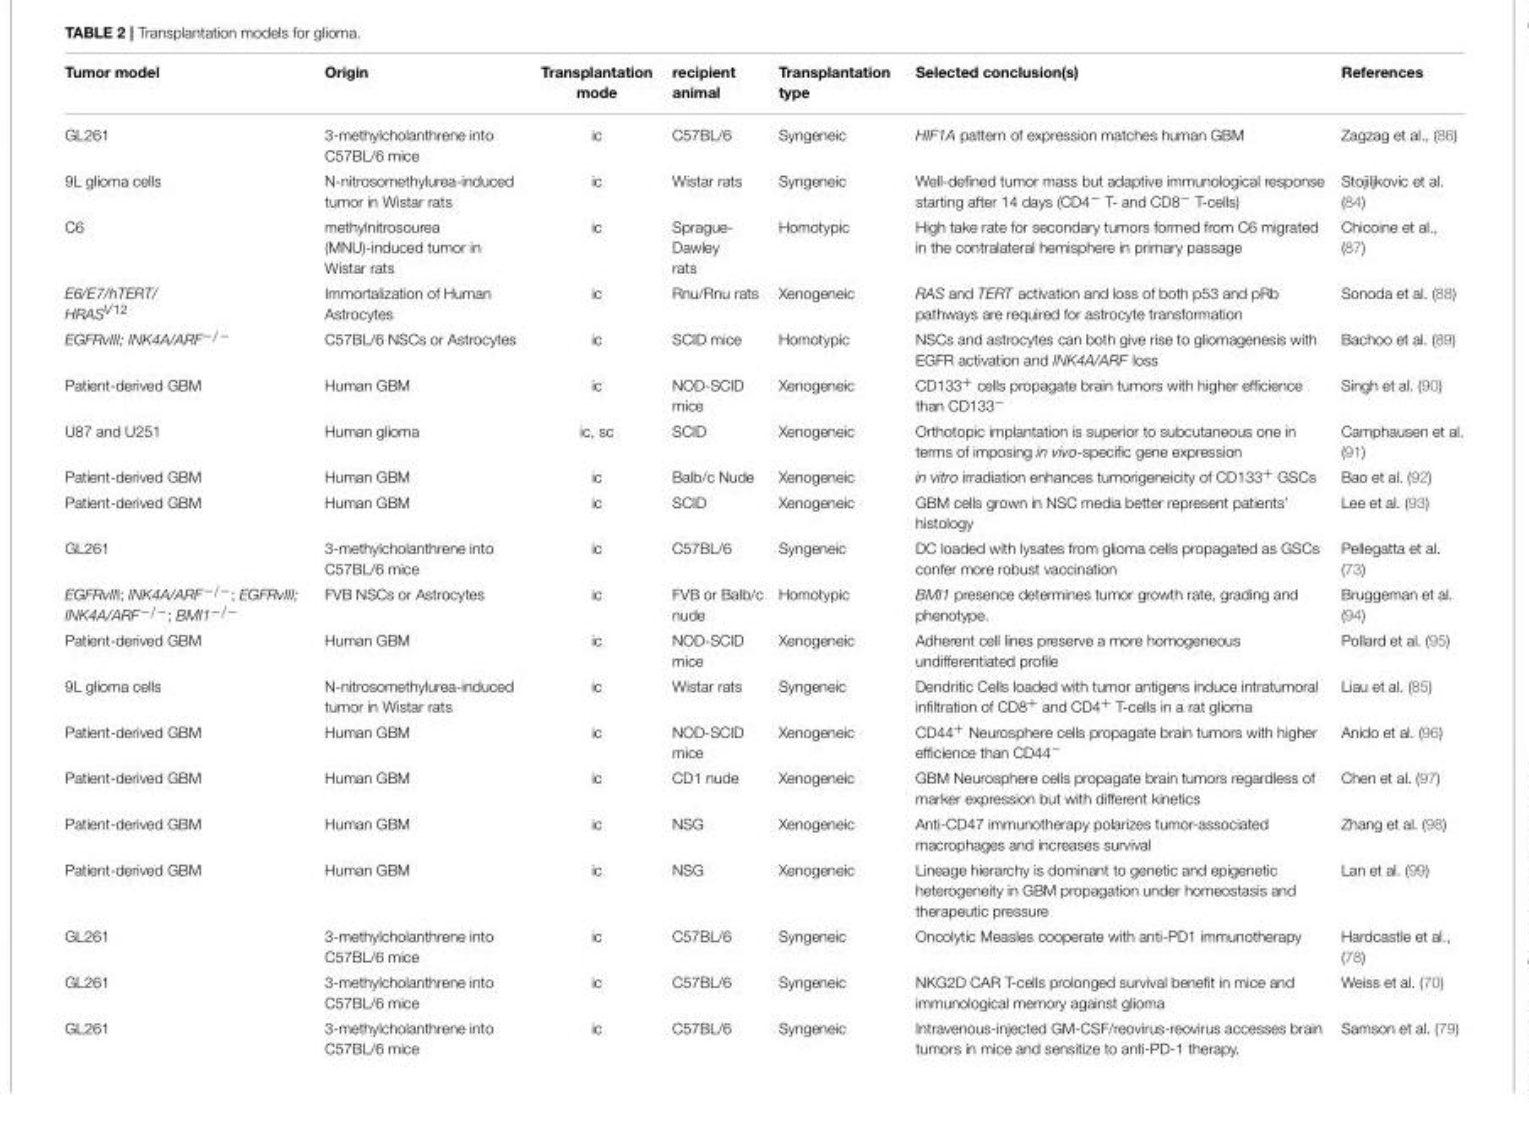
<table><thead><tr><td>Tumor model</td><td>Origin</td><td>Transplantation mode</td><td>recipient animal</td><td>Transplantation type</td><td>Selected conclusion(s)</td><td>References</td></tr></thead><tbody><tr><td>GL261</td><td>3-methylcholanthrene into C57BL/6 mice</td><td>ic</td><td>C57BL/6</td><td>Syngeneic</td><td>HIF1A pattern of expression matches human GBM</td><td>Zagzag et al., (86)</td></tr><tr><td>9L glioma cells</td><td>N-nitrosomethylurea-induced tumor in Wistar rats</td><td>ic</td><td>Wistar rats</td><td>Syngeneic</td><td>Well-defined tumor mass but adaptive immunological response starting after 14 days (CD4<sup>−</sup> T- and CD8<sup>−</sup> T-cells)</td><td>Stojiljkovic et al. (84)</td></tr><tr><td>C6</td><td>methylnitrosourea (MNU)-induced tumor in Wistar rats</td><td>ic</td><td>Sprague- Dawley rats</td><td>Homotypic</td><td>High take rate for secondary tumors formed from C6 migrated in the contralateral hemisphere in primary passage</td><td>Chicoine et al., (87)</td></tr><tr><td>E6/E7/hTERT/ HRASV12</td><td>Immortalization of Human Astrocytes</td><td>ic</td><td>Rnu/Rnu rats</td><td>Xenogeneic</td><td>RAS and TERT activation and loss of both p53 and pRb pathways are required for astrocyte transformation</td><td>Sonoda et al. (88)</td></tr><tr><td>EGFRvIII; INK4A/ARF<sup>−/−</sup></td><td>C57BL/6 NSCs or Astrocytes</td><td>ic</td><td>SCID mice</td><td>Homotypic</td><td>NSCs and astrocytes can both give rise to gliomagenesis with EGFR activation and INK4A/ARF loss</td><td>Bachoo et al. (89)</td></tr><tr><td>Patient-derived GBM</td><td>Human GBM</td><td>ic</td><td>NOD-SCID mice</td><td>Xenogeneic</td><td>CD133<sup>+</sup> cells propagate brain tumors with higher efficience than CD133<sup>−</sup></td><td>Singh et al. (90)</td></tr><tr><td>U87 and U251</td><td>Human glioma</td><td>ic, sc</td><td>SCID</td><td>Xenogeneic</td><td>Orthotopic implantation is superior to subcutaneous one in terms of imposing in vivo-specific gene expression</td><td>Camphausen et al. (91)</td></tr><tr><td>Patient-derived GBM</td><td>Human GBM</td><td>ic</td><td>Balb/c Nude</td><td>Xenogeneic</td><td>in vitro irradiation enhances tumorigeneicity of CD133<sup>+</sup> GSCs</td><td>Bao et al. (92)</td></tr><tr><td>Patient-derived GBM</td><td>Human GBM</td><td>ic</td><td>SCID</td><td>Xenogeneic</td><td>GBM cells grown in NSC media better represent patients’ histology</td><td>Lee et al. (93)</td></tr><tr><td>GL261</td><td>3-methylcholanthrene into C57BL/6 mice</td><td>ic</td><td>C57BL/6</td><td>Syngeneic</td><td>DC loaded with lysates from glioma cells propagated as GSCs confer more robust vaccination</td><td>Pellegatta et al. (73)</td></tr><tr><td>EGFRvIII; INK4A/ARF<sup>−/−</sup>; EGFRvIII; INK4A/ARF<sup>−/−</sup>; BMI1<sup>−/−</sup></td><td>FVB NSCs or Astrocytes</td><td>ic</td><td>FVB or Balb/c nude</td><td>Homotypic</td><td>BMI1 presence determines tumor growth rate, grading and phenotype.</td><td>Bruggeman et al. (94)</td></tr><tr><td>Patient-derived GBM</td><td>Human GBM</td><td>ic</td><td>NOD-SCID mice</td><td>Xenogeneic</td><td>Adherent cell lines preserve a more homogeneous undifferentiated profile</td><td>Pollard et al. (95)</td></tr><tr><td>9L glioma cells</td><td>N-nitrosomethylurea-induced tumor in Wistar rats</td><td>ic</td><td>Wistar rats</td><td>Syngeneic</td><td>Dendritic Cells loaded with tumor antigens induce intratumoral infiltration of CD8<sup>+</sup> and CD4<sup>+</sup> T-cells in a rat glioma</td><td>Liau et al. (85)</td></tr><tr><td>Patient-derived GBM</td><td>Human GBM</td><td>ic</td><td>NOD-SCID mice</td><td>Xenogeneic</td><td>CD44<sup>+</sup> Neurosphere cells propagate brain tumors with higher efficience than CD44<sup>−</sup></td><td>Anido et al. (96)</td></tr><tr><td>Patient-derived GBM</td><td>Human GBM</td><td>ic</td><td>CD1 nude</td><td>Xenogeneic</td><td>GBM Neurosphere cells propagate brain tumors regardless of marker expression but with different kinetics</td><td>Chen et al. (97)</td></tr><tr><td>Patient-derived GBM</td><td>Human GBM</td><td>ic</td><td>NSG</td><td>Xenogeneic</td><td>Anti-CD47 immunotherapy polarizes tumor-associated macrophages and increases survival</td><td>Zhang et al. (98)</td></tr><tr><td>Patient-derived GBM</td><td>Human GBM</td><td>ic</td><td>NSG</td><td>Xenogeneic</td><td>Lineage hierarchy is dominant to genetic and epigenetic heterogeneity in GBM propagation under homeostasis and therapeutic pressure</td><td>Lan et al. (99)</td></tr><tr><td>GL261</td><td>3-methylcholanthrene into C57BL/6 mice</td><td>ic</td><td>C57BL/6</td><td>Syngeneic</td><td>Oncolytic Measles cooperate with anti-PD1 immunotherapy</td><td>Hardcastle et al., (78)</td></tr><tr><td>GL261</td><td>3-methylcholanthrene into C57BL/6 mice</td><td>ic</td><td>C57BL/6</td><td>Syngeneic</td><td>NKG2D CAR T-cells prolonged survival benefit in mice and immunological memory against glioma</td><td>Weiss et al. (70)</td></tr><tr><td>GL261</td><td>3-methylcholanthrene into C57BL/6 mice</td><td>ic</td><td>C57BL/6</td><td>Syngeneic</td><td>Intravenous-injected GM-CSF/reovirus-reovirus accesses brain tumors in mice and sensitize to anti-PD-1 therapy.</td><td>Samson et al. (79)</td></tr></tbody></table>